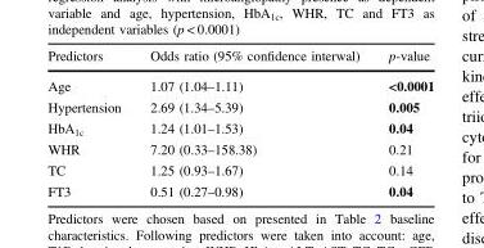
<table><thead><tr><td>Predictors</td><td>Odds ratio (95% confidence interwal)</td><td>p-value</td></tr></thead><tbody><tr><td>Age</td><td>1.07 (1.04–1.11)</td><td>&lt;0.0001</td></tr><tr><td>Hypertension</td><td>2.69 (1.34–5.39)</td><td>0.005</td></tr><tr><td>HbA<sub>1c</sub></td><td>1.24 (1.01–1.53)</td><td>0.04</td></tr><tr><td>WHR</td><td>7.20 (0.33–158.38)</td><td>0.21</td></tr><tr><td>TC</td><td>1.25 (0.93–1.67)</td><td>0.14</td></tr><tr><td>FT3</td><td>0.51 (0.27–0.98)</td><td>0.04</td></tr></tbody></table>